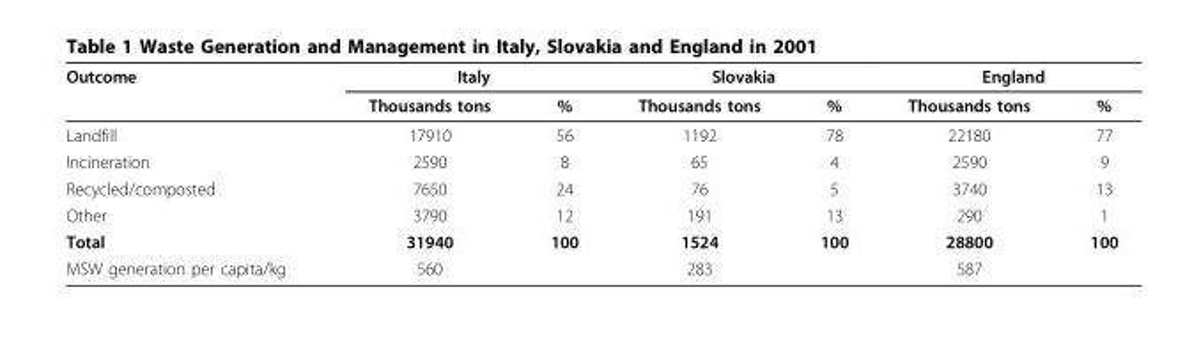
<table><thead><tr><td rowspan="2">Outcome</td><td colspan="2">Italy</td><td colspan="2">Slovakia</td><td colspan="2">England</td></tr><tr><td>Thousands tons</td><td>%</td><td>Thousands tons</td><td>%</td><td>Thousands tons</td><td>%</td></tr></thead><tbody><tr><td>Landfill</td><td>17910</td><td>56</td><td>1192</td><td>78</td><td>22180</td><td>77</td></tr><tr><td>Incineration</td><td>2590</td><td>8</td><td>65</td><td>4</td><td>2590</td><td>9</td></tr><tr><td>Recycled/composted</td><td>7650</td><td>24</td><td>76</td><td>5</td><td>3740</td><td>13</td></tr><tr><td>Other</td><td>3790</td><td>12</td><td>191</td><td>13</td><td>290</td><td>1</td></tr><tr><td>Total</td><td>31940</td><td>100</td><td>1524</td><td>100</td><td>28800</td><td>100</td></tr><tr><td>MSW generation per capita/kg</td><td>560</td><td></td><td>283</td><td></td><td>587</td><td></td></tr></tbody></table>